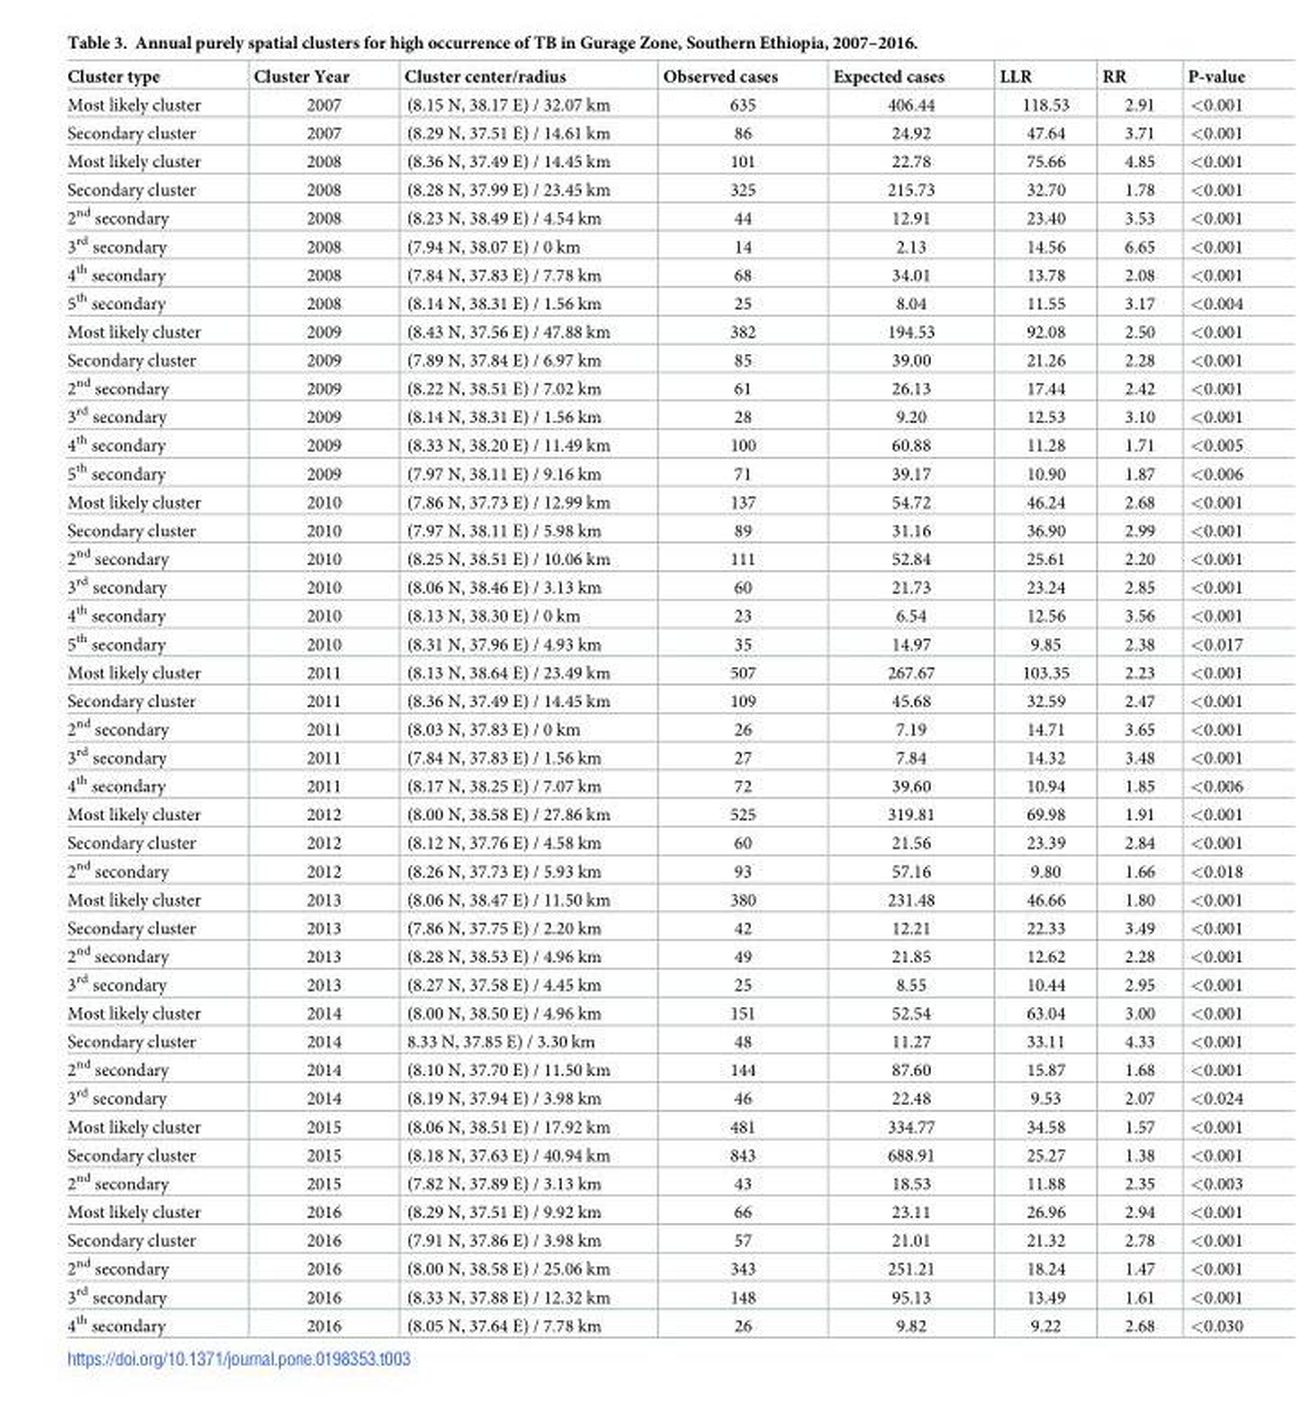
<table><thead><tr><td>Cluster type</td><td>Cluster Year</td><td>Cluster center/radius</td><td>Observed cases</td><td>Expected cases</td><td>LLR</td><td>RR</td><td>P-value</td></tr></thead><tbody><tr><td>Most likely cluster</td><td>2007</td><td>(8.15 N, 38.17 E) / 32.07 km</td><td>635</td><td>406.44</td><td>118.53</td><td>2.91</td><td>&lt;0.001</td></tr><tr><td>Secondary cluster</td><td>2007</td><td>(8.29 N, 37.51 E) / 14.61 km</td><td>86</td><td>24.92</td><td>47.64</td><td>3.71</td><td>&lt;0.001</td></tr><tr><td>Most likely cluster</td><td>2008</td><td>(8.36 N, 37.49 E) / 14.45 km</td><td>101</td><td>22.78</td><td>75.66</td><td>4.85</td><td>&lt;0.001</td></tr><tr><td>Secondary cluster</td><td>2008</td><td>(8.28 N, 37.99 E) / 23.45 km</td><td>325</td><td>215.73</td><td>32.70</td><td>1.78</td><td>&lt;0.001</td></tr><tr><td>2<sup>nd</sup> secondary</td><td>2008</td><td>(8.23 N, 38.49 E) / 4.54 km</td><td>44</td><td>12.91</td><td>23.40</td><td>3.53</td><td>&lt;0.001</td></tr><tr><td>3<sup>rd</sup> secondary</td><td>2008</td><td>(7.94 N, 38.07 E) / 0 km</td><td>14</td><td>2.13</td><td>14.56</td><td>6.65</td><td>&lt;0.001</td></tr><tr><td>4<sup>th</sup> secondary</td><td>2008</td><td>(7.84 N, 37.83 E) / 7.78 km</td><td>68</td><td>34.01</td><td>13.78</td><td>2.08</td><td>&lt;0.001</td></tr><tr><td>5<sup>th</sup> secondary</td><td>2008</td><td>(8.14 N, 38.31 E) / 1.56 km</td><td>25</td><td>8.04</td><td>11.55</td><td>3.17</td><td>&lt;0.004</td></tr><tr><td>Most likely cluster</td><td>2009</td><td>(8.43 N, 37.56 E) / 47.88 km</td><td>382</td><td>194.53</td><td>92.08</td><td>2.50</td><td>&lt;0.001</td></tr><tr><td>Secondary cluster</td><td>2009</td><td>(7.89 N, 37.84 E) / 6.97 km</td><td>85</td><td>39.00</td><td>21.26</td><td>2.28</td><td>&lt;0.001</td></tr><tr><td>2<sup>nd</sup> secondary</td><td>2009</td><td>(8.22 N, 38.51 E) / 7.02 km</td><td>61</td><td>26.13</td><td>17.44</td><td>2.42</td><td>&lt;0.001</td></tr><tr><td>3<sup>rd</sup> secondary</td><td>2009</td><td>(8.14 N, 38.31 E) / 1.56 km</td><td>28</td><td>9.20</td><td>12.53</td><td>3.10</td><td>&lt;0.001</td></tr><tr><td>4<sup>th</sup> secondary</td><td>2009</td><td>(8.33 N, 38.20 E) / 11.49 km</td><td>100</td><td>60.88</td><td>11.28</td><td>1.71</td><td>&lt;0.005</td></tr><tr><td>5<sup>th</sup> secondary</td><td>2009</td><td>(7.97 N, 38.11 E) / 9.16 km</td><td>71</td><td>39.17</td><td>10.90</td><td>1.87</td><td>&lt;0.006</td></tr><tr><td>Most likely cluster</td><td>2010</td><td>(7.86 N, 37.73 E) / 12.99 km</td><td>137</td><td>54.72</td><td>46.24</td><td>2.68</td><td>&lt;0.001</td></tr><tr><td>Secondary cluster</td><td>2010</td><td>(7.97 N, 38.11 E) / 5.98 km</td><td>89</td><td>31.16</td><td>36.90</td><td>2.99</td><td>&lt;0.001</td></tr><tr><td>2<sup>nd</sup> secondary</td><td>2010</td><td>(8.25 N, 38.51 E) / 10.06 km</td><td>111</td><td>52.84</td><td>25.61</td><td>2.20</td><td>&lt;0.001</td></tr><tr><td>3<sup>rd</sup> secondary</td><td>2010</td><td>(8.06 N, 38.46 E) / 3.13 km</td><td>60</td><td>21.73</td><td>23.24</td><td>2.85</td><td>&lt;0.001</td></tr><tr><td>4<sup>th</sup> secondary</td><td>2010</td><td>(8.13 N, 38.30 E) / 0 km</td><td>23</td><td>6.54</td><td>12.56</td><td>3.56</td><td>&lt;0.001</td></tr><tr><td>5<sup>th</sup> secondary</td><td>2010</td><td>(8.31 N, 37.96 E) / 4.93 km</td><td>35</td><td>14.97</td><td>9.85</td><td>2.38</td><td>&lt;0.017</td></tr><tr><td>Most likely cluster</td><td>2011</td><td>(8.13 N, 38.64 E) / 23.49 km</td><td>507</td><td>267.67</td><td>103.35</td><td>2.23</td><td>&lt;0.001</td></tr><tr><td>Secondary cluster</td><td>2011</td><td>(8.36 N, 37.49 E) / 14.45 km</td><td>109</td><td>45.68</td><td>32.59</td><td>2.47</td><td>&lt;0.001</td></tr><tr><td>2<sup>nd</sup> secondary</td><td>2011</td><td>(8.03 N, 37.83 E) / 0 km</td><td>26</td><td>7.19</td><td>14.71</td><td>3.65</td><td>&lt;0.001</td></tr><tr><td>3<sup>rd</sup> secondary</td><td>2011</td><td>(7.84 N, 37.83 E) / 1.56 km</td><td>27</td><td>7.84</td><td>14.32</td><td>3.48</td><td>&lt;0.001</td></tr><tr><td>4<sup>th</sup> secondary</td><td>2011</td><td>(8.17 N, 38.25 E) / 7.07 km</td><td>72</td><td>39.60</td><td>10.94</td><td>1.85</td><td>&lt;0.006</td></tr><tr><td>Most likely cluster</td><td>2012</td><td>(8.00 N, 38.58 E) / 27.86 km</td><td>525</td><td>319.81</td><td>69.98</td><td>1.91</td><td>&lt;0.001</td></tr><tr><td>Secondary cluster</td><td>2012</td><td>(8.12 N, 37.76 E) / 4.58 km</td><td>60</td><td>21.56</td><td>23.39</td><td>2.84</td><td>&lt;0.001</td></tr><tr><td>2<sup>nd</sup> secondary</td><td>2012</td><td>(8.26 N, 37.73 E) / 5.93 km</td><td>93</td><td>57.16</td><td>9.80</td><td>1.66</td><td>&lt;0.018</td></tr><tr><td>Most likely cluster</td><td>2013</td><td>(8.06 N, 38.47 E) / 11.50 km</td><td>380</td><td>231.48</td><td>46.66</td><td>1.80</td><td>&lt;0.001</td></tr><tr><td>Secondary cluster</td><td>2013</td><td>(7.86 N, 37.75 E) / 2.20 km</td><td>42</td><td>12.21</td><td>22.33</td><td>3.49</td><td>&lt;0.001</td></tr><tr><td>2<sup>nd</sup> secondary</td><td>2013</td><td>(8.28 N, 38.53 E) / 4.96 km</td><td>49</td><td>21.85</td><td>12.62</td><td>2.28</td><td>&lt;0.001</td></tr><tr><td>3<sup>rd</sup> secondary</td><td>2013</td><td>(8.27 N, 37.58 E) / 4.45 km</td><td>25</td><td>8.55</td><td>10.44</td><td>2.95</td><td>&lt;0.001</td></tr><tr><td>Most likely cluster</td><td>2014</td><td>(8.00 N, 38.50 E) / 4.96 km</td><td>151</td><td>52.54</td><td>63.04</td><td>3.00</td><td>&lt;0.001</td></tr><tr><td>Secondary cluster</td><td>2014</td><td>8.33 N, 37.85 E) / 3.30 km</td><td>48</td><td>11.27</td><td>33.11</td><td>4.33</td><td>&lt;0.001</td></tr><tr><td>2<sup>nd</sup> secondary</td><td>2014</td><td>(8.10 N, 37.70 E) / 11.50 km</td><td>144</td><td>87.60</td><td>15.87</td><td>1.68</td><td>&lt;0.001</td></tr><tr><td>3<sup>rd</sup> secondary</td><td>2014</td><td>(8.19 N, 37.94 E) / 3.98 km</td><td>46</td><td>22.48</td><td>9.53</td><td>2.07</td><td>&lt;0.024</td></tr><tr><td>Most likely cluster</td><td>2015</td><td>(8.06 N, 38.51 E) / 17.92 km</td><td>481</td><td>334.77</td><td>34.58</td><td>1.57</td><td>&lt;0.001</td></tr><tr><td>Secondary cluster</td><td>2015</td><td>(8.18 N, 37.63 E) / 40.94 km</td><td>843</td><td>688.91</td><td>25.27</td><td>1.38</td><td>&lt;0.001</td></tr><tr><td>2<sup>nd</sup> secondary</td><td>2015</td><td>(7.82 N, 37.89 E) / 3.13 km</td><td>43</td><td>18.53</td><td>11.88</td><td>2.35</td><td>&lt;0.003</td></tr><tr><td>Most likely cluster</td><td>2016</td><td>(8.29 N, 37.51 E) / 9.92 km</td><td>66</td><td>23.11</td><td>26.96</td><td>2.94</td><td>&lt;0.001</td></tr><tr><td>Secondary cluster</td><td>2016</td><td>(7.91 N, 37.86 E) / 3.98 km</td><td>57</td><td>21.01</td><td>21.32</td><td>2.78</td><td>&lt;0.001</td></tr><tr><td>2<sup>nd</sup> secondary</td><td>2016</td><td>(8.00 N, 38.58 E) / 25.06 km</td><td>343</td><td>251.21</td><td>18.24</td><td>1.47</td><td>&lt;0.001</td></tr><tr><td>3<sup>rd</sup> secondary</td><td>2016</td><td>(8.33 N, 37.88 E) / 12.32 km</td><td>148</td><td>95.13</td><td>13.49</td><td>1.61</td><td>&lt;0.001</td></tr><tr><td>4<sup>th</sup> secondary</td><td>2016</td><td>(8.05 N, 37.64 E) / 7.78 km</td><td>26</td><td>9.82</td><td>9.22</td><td>2.68</td><td>&lt;0.030</td></tr></tbody></table>